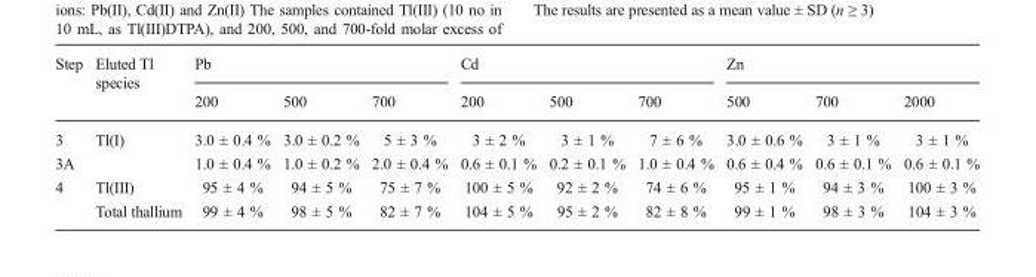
<table><thead><tr><td rowspan="2">Step</td><td rowspan="2">Eluted Tl species</td><td colspan="3">Pb</td><td colspan="3">Cd</td><td colspan="3">Zn</td></tr><tr><td>200</td><td>500</td><td>700</td><td>200</td><td>500</td><td>700</td><td>500</td><td>700</td><td>2000</td></tr></thead><tbody><tr><td>3</td><td rowspan="2">Tl(I)</td><td>3.0 ± 0.4 %</td><td>3.0 ± 0.2 %</td><td>5 ± 3 %</td><td>3 ± 2 %</td><td>3 ± 1 %</td><td>7 ± 6 %</td><td>3.0 ± 0.6 %</td><td>3 ± 1 %</td><td>3 ± 1 %</td></tr><tr><td>3A</td><td>1.0 ± 0.4 %</td><td>1.0 ± 0.2 %</td><td>2.0 ± 0.4 %</td><td>0.6 ± 0.1 %</td><td>0.2 ± 0.1 %</td><td>1.0 ± 0.4 %</td><td>0.6 ± 0.4 %</td><td>0.6 ± 0.1 %</td><td>0.6 ± 0.1 %</td></tr><tr><td rowspan="2">4</td><td>Tl(III)</td><td>95 ± 4 %</td><td>94 ± 5 %</td><td>75 ± 7 %</td><td>100 ± 5 %</td><td>92 ± 2 %</td><td>74 ± 6 %</td><td>95 ± 1 %</td><td>94 ± 3 %</td><td>100 ± 3 %</td></tr><tr><td>Total thallium</td><td>99 ± 4 %</td><td>98 ± 5 %</td><td>82 ± 7 %</td><td>104 ± 5 %</td><td>95 ± 2 %</td><td>82 ± 8 %</td><td>99 ± 1 %</td><td>98 ± 3 %</td><td>104 ± 3 %</td></tr></tbody></table>